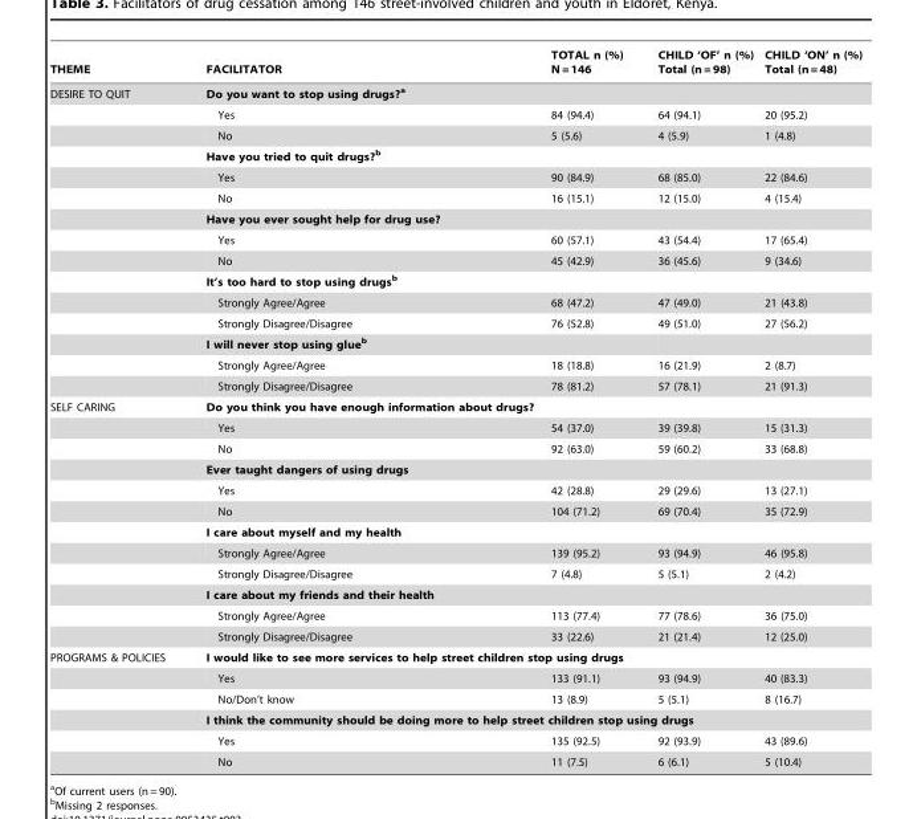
<table><thead><tr><td>THEME</td><td>FACILITATOR</td><td>TOTAL n (%) N = 146</td><td>CHILD ‘OF’ n (%) Total (n = 98)</td><td>CHILD ‘ON’ n (%) Total (n = 48)</td></tr></thead><tbody><tr><td rowspan="15">DESIRE TO QUIT</td><td colspan="4">Do you want to stop using drugs?a</td></tr><tr><td>Yes</td><td>84 (94.4)</td><td>64 (94.1)</td><td>20 (95.2)</td></tr><tr><td>No</td><td>5 (5.6)</td><td>4 (5.9)</td><td>1 (4.8)</td></tr><tr><td colspan="4">Have you tried to quit drugs?b</td></tr><tr><td>Yes</td><td>90 (84.9)</td><td>68 (85.0)</td><td>22 (84.6)</td></tr><tr><td>No</td><td>16 (15.1)</td><td>12 (15.0)</td><td>4 (15.4)</td></tr><tr><td colspan="4">Have you ever sought help for drug use?</td></tr><tr><td>Yes</td><td>60 (57.1)</td><td>43 (54.4)</td><td>17 (65.4)</td></tr><tr><td>No</td><td>45 (42.9)</td><td>36 (45.6)</td><td>9 (34.6)</td></tr><tr><td colspan="4">It’s too hard to stop using drugsb</td></tr><tr><td>Strongly Agree/Agree</td><td>68 (47.2)</td><td>47 (49.0)</td><td>21 (43.8)</td></tr><tr><td>Strongly Disagree/Disagree</td><td>76 (52.8)</td><td>49 (51.0)</td><td>27 (56.2)</td></tr><tr><td>I will never stop using glueb</td><td></td><td></td><td></td></tr><tr><td>Strongly Agree/Agree</td><td>18 (18.8)</td><td>16 (21.9)</td><td>2 (8.7)</td></tr><tr><td>Strongly Disagree/Disagree</td><td>78 (81.2)</td><td>57 (78.1)</td><td>21 (91.3)</td></tr><tr><td rowspan="12">SELF CARING</td><td colspan="4">Do you think you have enough information about drugs?</td></tr><tr><td>Yes</td><td>54 (37.0)</td><td>39 (39.8)</td><td>15 (31.3)</td></tr><tr><td>No</td><td>92 (63.0)</td><td>59 (60.2)</td><td>33 (68.8)</td></tr><tr><td colspan="4">Ever taught dangers of using drugs</td></tr><tr><td>Yes</td><td>42 (28.8)</td><td>29 (29.6)</td><td>13 (27.1)</td></tr><tr><td>No</td><td>104 (71.2)</td><td>69 (70.4)</td><td>35 (72.9)</td></tr><tr><td colspan="4">I care about myself and my health</td></tr><tr><td>Strongly Agree/Agree</td><td>139 (95.2)</td><td>93 (94.9)</td><td>46 (95.8)</td></tr><tr><td>Strongly Disagree/Disagree</td><td>7 (4.8)</td><td>5 (5.1)</td><td>2 (4.2)</td></tr><tr><td colspan="4">I care about my friends and their health</td></tr><tr><td>Strongly Agree/Agree</td><td>113 (77.4)</td><td>77 (78.6)</td><td>36 (75.0)</td></tr><tr><td>Strongly Disagree/Disagree</td><td>33 (22.6)</td><td>21 (21.4)</td><td>12 (25.0)</td></tr><tr><td rowspan="6">PROGRAMS &amp; POLICIES</td><td colspan="4">I would like to see more services to help street children stop using drugs</td></tr><tr><td>Yes</td><td>133 (91.1)</td><td>93 (94.9)</td><td>40 (83.3)</td></tr><tr><td>No/Don’t know</td><td>13 (8.9)</td><td>5 (5.1)</td><td>8 (16.7)</td></tr><tr><td colspan="4">I think the community should be doing more to help street children stop using drugs</td></tr><tr><td>Yes</td><td>135 (92.5)</td><td>92 (93.9)</td><td>43 (89.6)</td></tr><tr><td>No</td><td>11 (7.5)</td><td>6 (6.1)</td><td>5 (10.4)</td></tr></tbody></table>